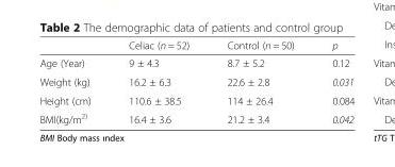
<table><thead><tr><td></td><td>Celiac (n = 52)</td><td>Control (n = 50)</td><td>p</td></tr></thead><tbody><tr><td>Age (Year)</td><td>9 ± 4.3</td><td>8.7 ± 5.2</td><td>0.12</td></tr><tr><td>Weight (kg)</td><td>16.2 ± 6.3</td><td>22.6 ± 2.8</td><td>0.031</td></tr><tr><td>Height (cm)</td><td>110.6 ± 38.5</td><td>114 ± 26.4</td><td>0.084</td></tr><tr><td>BMI(kg/m<sup>2)</sup></td><td>16.4 ± 3.6</td><td>21.2 ± 3.4</td><td>0.042</td></tr></tbody></table>